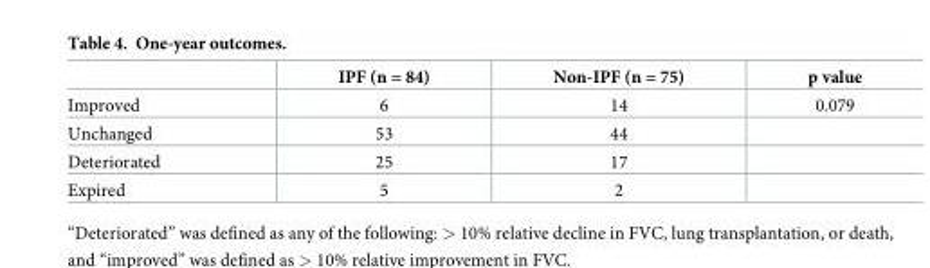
<table><thead><tr><td></td><td>IPF (n = 84)</td><td>Non-IPF (n = 75)</td><td>p value</td></tr></thead><tbody><tr><td>Improved</td><td>6</td><td>14</td><td>0.079</td></tr><tr><td>Unchanged</td><td>53</td><td>44</td><td></td></tr><tr><td>Deteriorated</td><td>25</td><td>17</td><td></td></tr><tr><td>Expired</td><td>5</td><td>2</td><td></td></tr></tbody></table>